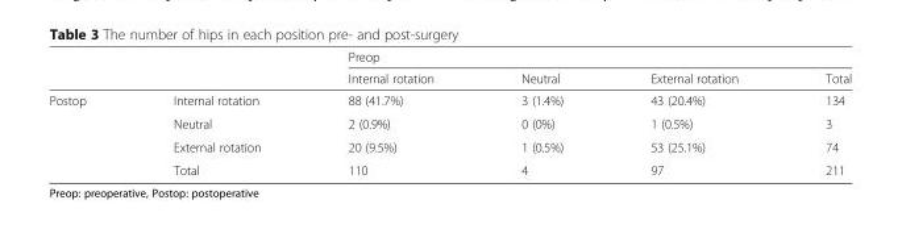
<table><thead><tr><td rowspan="2"></td><td rowspan="2"></td><td colspan="4">Preop</td></tr><tr><td>Internal rotation</td><td>Neutral</td><td>External rotation</td><td>Total</td></tr></thead><tbody><tr><td rowspan="4">Postop</td><td>Internal rotation</td><td>88 (41.7%)</td><td>3 (1.4%)</td><td>43 (20.4%)</td><td>134</td></tr><tr><td>Neutral</td><td>2 (0.9%)</td><td>0 (0%)</td><td>1 (0.5%)</td><td>3</td></tr><tr><td>External rotation</td><td>20 (9.5%)</td><td>1 (0.5%)</td><td>53 (25.1%)</td><td>74</td></tr><tr><td>Total</td><td>110</td><td>4</td><td>97</td><td>211</td></tr></tbody></table>